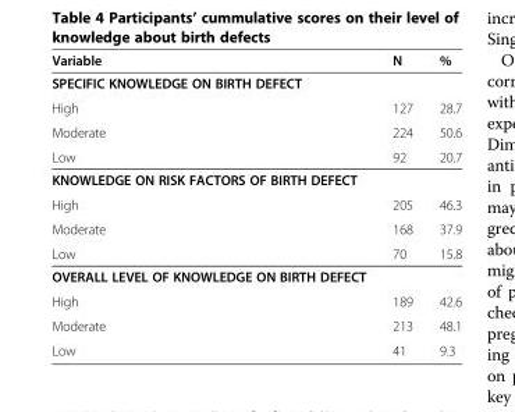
<table><thead><tr><td>Variable</td><td>N</td><td>%</td></tr></thead><tbody><tr><td colspan="3">SPECIFIC KNOWLEDGE ON BIRTH DEFECT</td></tr><tr><td>High</td><td>127</td><td>28.7</td></tr><tr><td>Moderate</td><td>224</td><td>50.6</td></tr><tr><td>Low</td><td>92</td><td>20.7</td></tr><tr><td colspan="3">KNOWLEDGE ON RISK FACTORS OF BIRTH DEFECT</td></tr><tr><td>High</td><td>205</td><td>46.3</td></tr><tr><td>Moderate</td><td>168</td><td>37.9</td></tr><tr><td>Low</td><td>70</td><td>15.8</td></tr><tr><td colspan="3">OVERALL LEVEL OF KNOWLEDGE ON BIRTH DEFECT</td></tr><tr><td>High</td><td>189</td><td>42.6</td></tr><tr><td>Moderate</td><td>213</td><td>48.1</td></tr><tr><td>Low</td><td>41</td><td>9.3</td></tr></tbody></table>